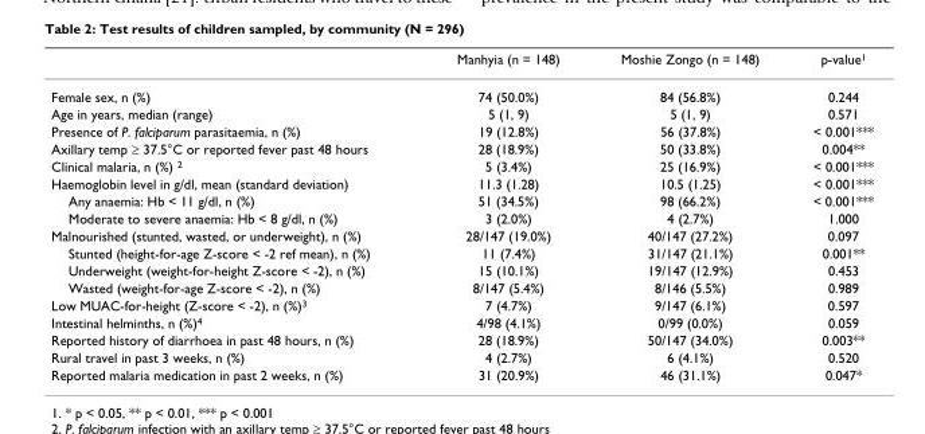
<table><thead><tr><td></td><td>Manhyia (n = 148)</td><td>Moshie Zongo (n = 148)</td><td>p-value<sup>1</sup></td></tr></thead><tbody><tr><td>Female sex, n (%)</td><td>74 (50.0%)</td><td>84 (56.8%)</td><td>0.244</td></tr><tr><td>Age in years, median (range)</td><td>5 (1, 9)</td><td>5 (1, 9)</td><td>0.571</td></tr><tr><td>Presence of P. falciparum parasitaemia, n (%)</td><td>19 (12.8%)</td><td>56 (37.8%)</td><td>&lt; 0.001***</td></tr><tr><td>Axillary temp ≥ 37.5°C or reported fever past 48 hours</td><td>28 (18.9%)</td><td>50 (33.8%)</td><td>0.004**</td></tr><tr><td>Clinical malaria, n (%) <sup>2</sup></td><td>5 (3.4%)</td><td>25 (16.9%)</td><td>&lt; 0.001***</td></tr><tr><td>Haemoglobin level in g/dl, mean (standard deviation)</td><td>11.3 (1.28)</td><td>10.5 (1.25)</td><td>&lt; 0.001***</td></tr><tr><td>Any anaemia: Hb &lt; 11 g/dl, n (%)</td><td>51 (34.5%)</td><td>98 (66.2%)</td><td>&lt; 0.001***</td></tr><tr><td>Moderate to severe anaemia: Hb &lt; 8 g/dl, n (%)</td><td>3 (2.0%)</td><td>4 (2.7%)</td><td>1.000</td></tr><tr><td>Malnourished (stunted, wasted, or underweight), n (%)</td><td>28/147 (19.0%)</td><td>40/147 (27.2%)</td><td>0.097</td></tr><tr><td>Stunted (height-for-age Z-score &lt; -2 ref mean), n (%)</td><td>11 (7.4%)</td><td>31/147 (21.1%)</td><td>0.001**</td></tr><tr><td>Underweight (weight-for-height Z-score &lt; -2), n (%)</td><td>15 (10.1%)</td><td>19/147 (12.9%)</td><td>0.453</td></tr><tr><td>Wasted (weight-for-age Z-score &lt; -2), n (%)</td><td>8/147 (5.4%)</td><td>8/146 (5.5%)</td><td>0.989</td></tr><tr><td>Low MUAC-for-height (Z-score &lt; -2), n (%)<sup>3</sup></td><td>7 (4.7%)</td><td>9/147 (6.1%)</td><td>0.597</td></tr><tr><td>Intestinal helminths, n (%)<sup>4</sup></td><td>4/98 (4.1%)</td><td>0/99 (0.0%)</td><td>0.059</td></tr><tr><td>Reported history of diarrhoea in past 48 hours, n (%)</td><td>28 (18.9%)</td><td>50/147 (34.0%)</td><td>0.003**</td></tr><tr><td>Rural travel in past 3 weeks, n (%)</td><td>4 (2.7%)</td><td>6 (4.1%)</td><td>0.520</td></tr><tr><td>Reported malaria medication in past 2 weeks, n (%)</td><td>31 (20.9%)</td><td>46 (31.1%)</td><td>0.047*</td></tr></tbody></table>